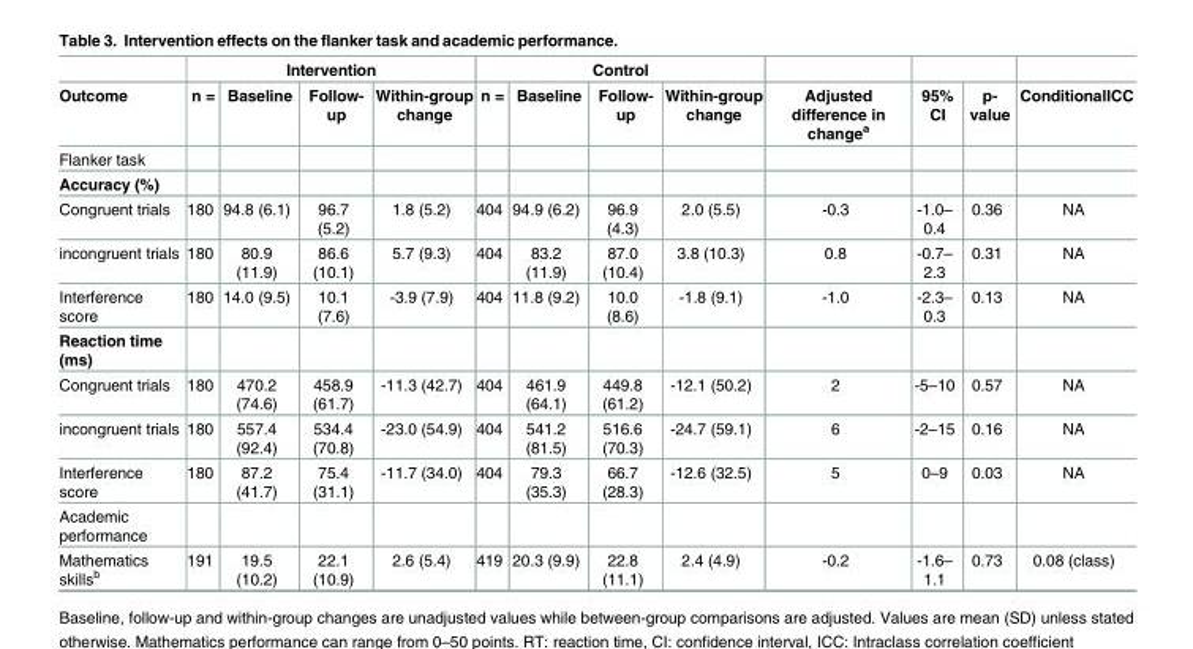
<table><thead><tr><td rowspan="2">Outcome</td><td colspan="4">Intervention</td><td colspan="4">Control</td><td rowspan="2">Adjusted difference in change<sup>a</sup></td><td rowspan="2">95% CI</td><td rowspan="2">p- value</td><td rowspan="2">ConditionalICC</td></tr><tr><td>n =</td><td>Baseline</td><td>Follow- up</td><td>Within-group change</td><td>n =</td><td>Baseline</td><td>Follow- up</td><td>Within-group change</td></tr></thead><tbody><tr><td colspan="13">Flanker task</td></tr><tr><td colspan="13">Accuracy (%)</td></tr><tr><td>Congruent trials</td><td>180</td><td>94.8 (6.1)</td><td>96.7 (5.2)</td><td>1.8 (5.2)</td><td>404</td><td>94.9 (6.2)</td><td>96.9 (4.3)</td><td>2.0 (5.5)</td><td>-0.3</td><td>-1.0– 0.4</td><td>0.36</td><td>NA</td></tr><tr><td>incongruent trials</td><td>180</td><td>80.9 (11.9)</td><td>86.6 (10.1)</td><td>5.7 (9.3)</td><td>404</td><td>83.2 (11.9)</td><td>87.0 (10.4)</td><td>3.8 (10.3)</td><td>0.8</td><td>-0.7– 2.3</td><td>0.31</td><td>NA</td></tr><tr><td>Interference score</td><td>180</td><td>14.0 (9.5)</td><td>10.1 (7.6)</td><td>-3.9 (7.9)</td><td>404</td><td>11.8 (9.2)</td><td>10.0 (8.6)</td><td>-1.8 (9.1)</td><td>-1.0</td><td>-2.3– 0.3</td><td>0.13</td><td>NA</td></tr><tr><td colspan="13">Reaction time (ms)</td></tr><tr><td>Congruent trials</td><td>180</td><td>470.2 (74.6)</td><td>458.9 (61.7)</td><td>-11.3 (42.7)</td><td>404</td><td>461.9 (64.1)</td><td>449.8 (61.2)</td><td>-12.1 (50.2)</td><td>2</td><td>-5–10</td><td>0.57</td><td>NA</td></tr><tr><td>incongruent trials</td><td>180</td><td>557.4 (92.4)</td><td>534.4 (70.8)</td><td>-23.0 (54.9)</td><td>404</td><td>541.2 (81.5)</td><td>516.6 (70.3)</td><td>-24.7 (59.1)</td><td>6</td><td>-2–15</td><td>0.16</td><td>NA</td></tr><tr><td>Interference score</td><td>180</td><td>87.2 (41.7)</td><td>75.4 (31.1)</td><td>-11.7 (34.0)</td><td>404</td><td>79.3 (35.3)</td><td>66.7 (28.3)</td><td>-12.6 (32.5)</td><td>5</td><td>0–9</td><td>0.03</td><td>NA</td></tr><tr><td colspan="13">Academic performance</td></tr><tr><td>Mathematics skills<sup>b</sup></td><td>191</td><td>19.5 (10.2)</td><td>22.1 (10.9)</td><td>2.6 (5.4)</td><td>419</td><td>20.3 (9.9)</td><td>22.8 (11.1)</td><td>2.4 (4.9)</td><td>-0.2</td><td>-1.6– 1.1</td><td>0.73</td><td>0.08 (class)</td></tr></tbody></table>